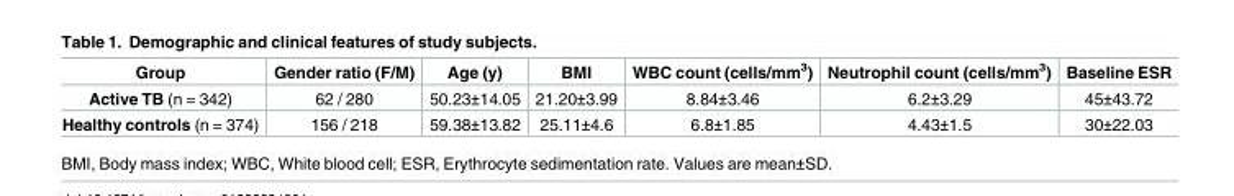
<table><thead><tr><td>Group</td><td>Gender ratio (F/M)</td><td>Age (y)</td><td>BMI</td><td>WBC count (cells/mm<sup>3</sup>)</td><td>Neutrophil count (cells/mm<sup>3</sup>)</td><td>Baseline ESR</td></tr></thead><tbody><tr><td>Active TB (n = 342)</td><td>62 / 280</td><td>50.23±14.05</td><td>21.20±3.99</td><td>8.84±3.46</td><td>6.2±3.29</td><td>45±43.72</td></tr><tr><td>Healthy controls (n = 374)</td><td>156 / 218</td><td>59.38±13.82</td><td>25.11±4.6</td><td>6.8±1.85</td><td>4.43±1.5</td><td>30±22.03</td></tr></tbody></table>